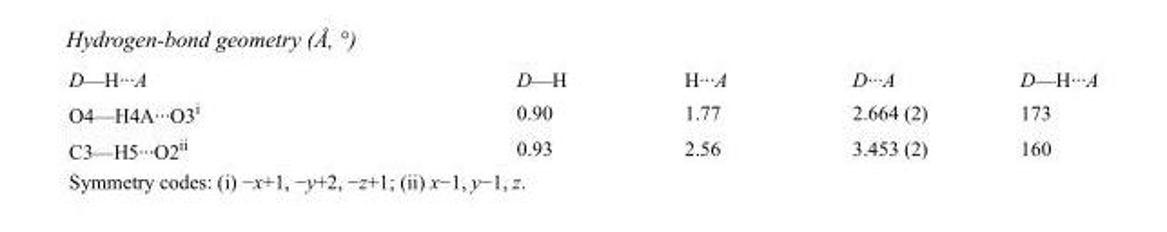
<table><tbody><tr><td>D—H···A</td><td>D—H</td><td>H···A</td><td>D···A</td><td>D—H···A</td></tr><tr><td>O4—H4A···O3<sup>i</sup></td><td>0.90</td><td>1.77</td><td>2.664 (2)</td><td>173</td></tr><tr><td>C3—H5···O2<sup>ii</sup></td><td>0.93</td><td>2.56</td><td>3.453 (2)</td><td>160</td></tr></tbody></table>